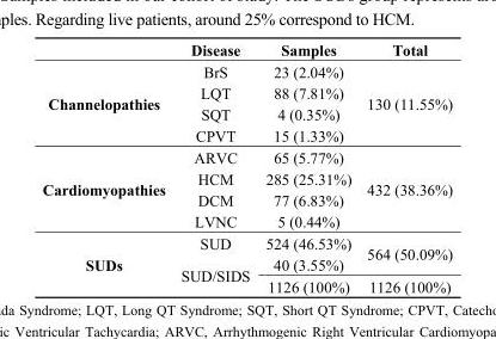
<table><thead><tr><td></td><td>Disease</td><td>Samples</td><td>Total</td></tr></thead><tbody><tr><td rowspan="4">Channelopathies</td><td>BrS</td><td>23 (2.04%)</td><td rowspan="4">130 (11.55%)</td></tr><tr><td>LQT</td><td>88 (7.81%)</td></tr><tr><td>SQT</td><td>4 (0.35%)</td></tr><tr><td>CPVT</td><td>15 (1.33%)</td></tr><tr><td rowspan="4">Cardiomyopathies</td><td>ARVC</td><td>65 (5.77%)</td><td rowspan="4">432 (38.36%)</td></tr><tr><td>HCM</td><td>285 (25.31%)</td></tr><tr><td>DCM</td><td>77 (6.83%)</td></tr><tr><td>LVNC</td><td>5 (0.44%)</td></tr><tr><td rowspan="3">SUDs</td><td>SUD</td><td>524 (46.53%)</td><td rowspan="2">564 (50.09%)</td></tr><tr><td rowspan="2">SUD/SIDS</td><td>40 (3.55%)</td></tr><tr><td>1126 (100%)</td><td>1126 (100%)</td></tr></tbody></table>